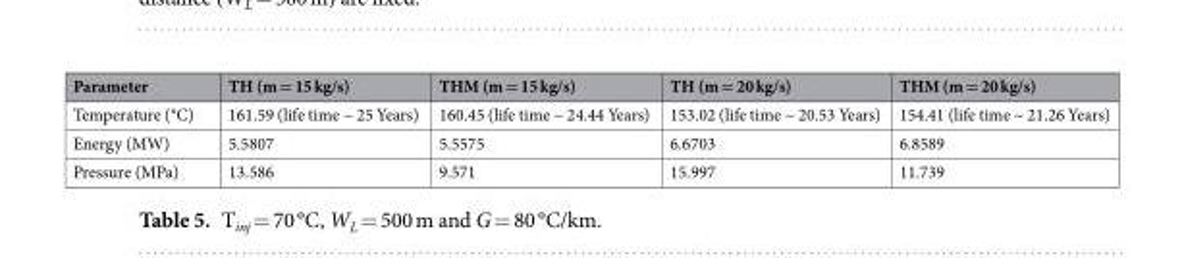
<table><thead><tr><td>Parameter</td><td>TH (m = 15 kg/s)</td><td>THM (m = 15 kg/s)</td><td>TH (m = 20 kg/s)</td><td>THM (m = 20 kg/s)</td></tr></thead><tbody><tr><td>Temperature (°C)</td><td>161.59 (life time ~ 25 Years)</td><td>160.45 (life time ~ 24.44 Years)</td><td>153.02 (life time ~ 20.53 Years)</td><td>154.41 (life time ~ 21.26 Years)</td></tr><tr><td>Energy (MW)</td><td>5.5807</td><td>5.5575</td><td>6.6703</td><td>6.8589</td></tr><tr><td>Pressure (MPa)</td><td>13.586</td><td>9.571</td><td>15.997</td><td>11.739</td></tr></tbody></table>